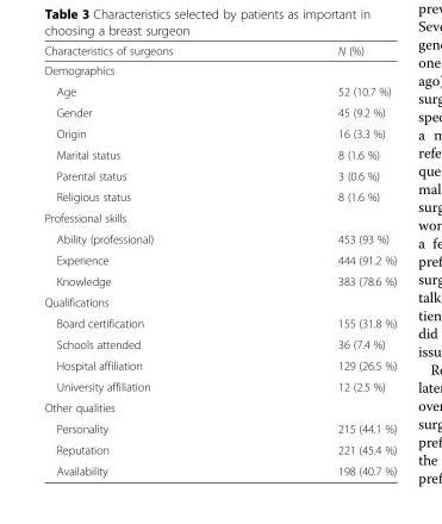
<table><thead><tr><td>Characteristics of surgeons</td><td>N (%)</td></tr></thead><tbody><tr><td colspan="2">Demographics</td></tr><tr><td>Age</td><td>52 (10.7 %)</td></tr><tr><td>Gender</td><td>45 (9.2 %)</td></tr><tr><td>Origin</td><td>16 (3.3 %)</td></tr><tr><td>Marital status</td><td>8 (1.6 %)</td></tr><tr><td>Parental status</td><td>3 (0.6 %)</td></tr><tr><td>Religious status</td><td>8 (1.6 %)</td></tr><tr><td colspan="2">Professional skills</td></tr><tr><td>Ability (professional)</td><td>453 (93 %)</td></tr><tr><td>Experience</td><td>444 (91.2 %)</td></tr><tr><td>Knowledge</td><td>383 (78.6 %)</td></tr><tr><td colspan="2">Qualifications</td></tr><tr><td>Board certification</td><td>155 (31.8 %)</td></tr><tr><td>Schools attended</td><td>36 (7.4 %)</td></tr><tr><td>Hospital affiliation</td><td>129 (26.5 %)</td></tr><tr><td>University affiliation</td><td>12 (2.5 %)</td></tr><tr><td colspan="2">Other qualities</td></tr><tr><td>Personality</td><td>215 (44.1 %)</td></tr><tr><td>Reputation</td><td>221 (45.4 %)</td></tr><tr><td>Availability</td><td>198 (40.7 %)</td></tr></tbody></table>